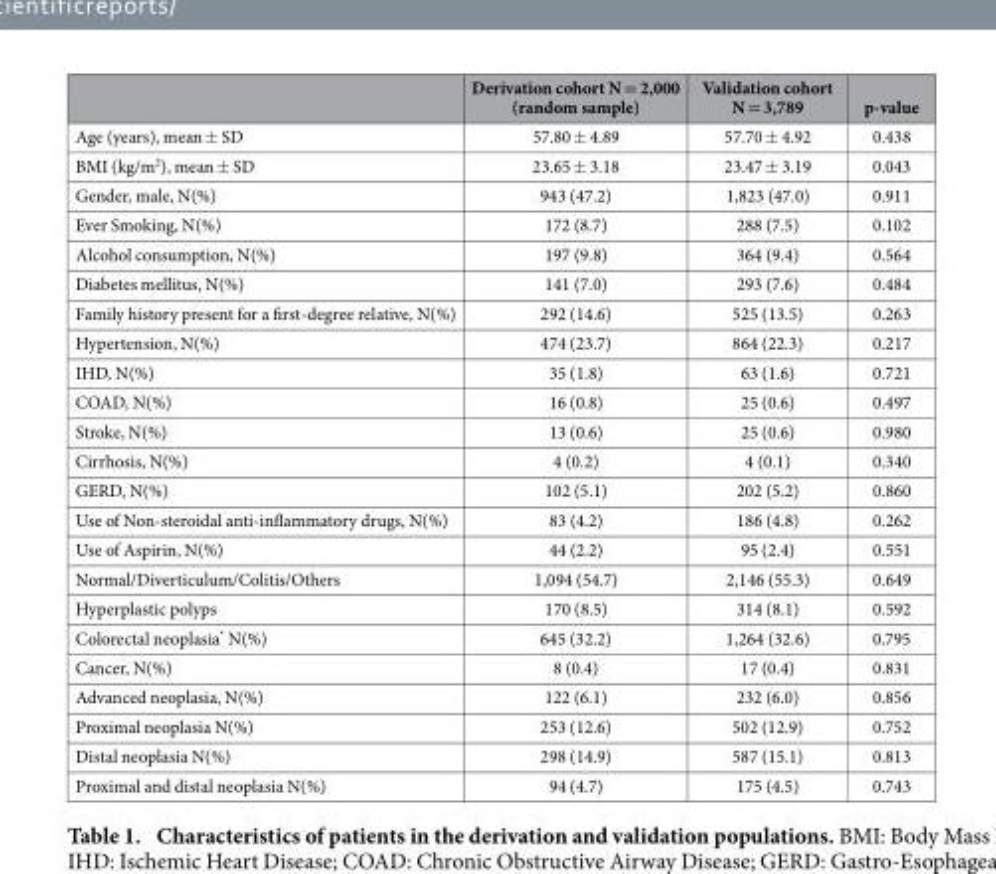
<table><thead><tr><td></td><td>Derivation cohort N = 2,000 (random sample)</td><td>Validation cohort N = 3,789</td><td>p-value</td></tr></thead><tbody><tr><td>Age (years), mean ± SD</td><td>57.80 ± 4.89</td><td>57.70 ± 4.92</td><td>0.438</td></tr><tr><td>BMI (kg/m<sup>2</sup>), mean ± SD</td><td>23.65 ± 3.18</td><td>23.47 ± 3.19</td><td>0.043</td></tr><tr><td>Gender, male, N(%)</td><td>943 (47.2)</td><td>1,823 (47.0)</td><td>0.911</td></tr><tr><td>Ever Smoking, N(%)</td><td>172 (8.7)</td><td>288 (7.5)</td><td>0.102</td></tr><tr><td>Alcohol consumption, N(%)</td><td>197 (9.8)</td><td>364 (9.4)</td><td>0.564</td></tr><tr><td>Diabetes mellitus, N(%)</td><td>141 (7.0)</td><td>293 (7.6)</td><td>0.484</td></tr><tr><td>Family history present for a first-degree relative, N(%)</td><td>292 (14.6)</td><td>525 (13.5)</td><td>0.263</td></tr><tr><td>Hypertension, N(%)</td><td>474 (23.7)</td><td>864 (22.3)</td><td>0.217</td></tr><tr><td>IHD, N(%)</td><td>35 (1.8)</td><td>63 (1.6)</td><td>0.721</td></tr><tr><td>COAD, N(%)</td><td>16 (0.8)</td><td>25 (0.6)</td><td>0.497</td></tr><tr><td>Stroke, N(%)</td><td>13 (0.6)</td><td>25 (0.6)</td><td>0.980</td></tr><tr><td>Cirrhosis, N(%)</td><td>4 (0.2)</td><td>4 (0.1)</td><td>0.340</td></tr><tr><td>GERD, N(%)</td><td>102 (5.1)</td><td>202 (5.2)</td><td>0.860</td></tr><tr><td>Use of Non-steroidal anti-inflammatory drugs, N(%)</td><td>83 (4.2)</td><td>186 (4.8)</td><td>0.262</td></tr><tr><td>Use of Aspirin, N(%)</td><td>44 (2.2)</td><td>95 (2.4)</td><td>0.551</td></tr><tr><td>Normal/Diverticulum/Colitis/Others</td><td>1,094 (54.7)</td><td>2,146 (55.3)</td><td>0.649</td></tr><tr><td>Hyperplastic polyps</td><td>170 (8.5)</td><td>314 (8.1)</td><td>0.592</td></tr><tr><td>Colorectal neoplasia* N(%)</td><td>645 (32.2)</td><td>1,264 (32.6)</td><td>0.795</td></tr><tr><td>Cancer, N(%)</td><td>8 (0.4)</td><td>17 (0.4)</td><td>0.831</td></tr><tr><td>Advanced neoplasia, N(%)</td><td>122 (6.1)</td><td>232 (6.0)</td><td>0.856</td></tr><tr><td>Proximal neoplasia N(%)</td><td>253 (12.6)</td><td>502 (12.9)</td><td>0.752</td></tr><tr><td>Distal neoplasia N(%)</td><td>298 (14.9)</td><td>587 (15.1)</td><td>0.813</td></tr><tr><td>Proximal and distal neoplasia N(%)</td><td>94 (4.7)</td><td>175 (4.5)</td><td>0.743</td></tr></tbody></table>